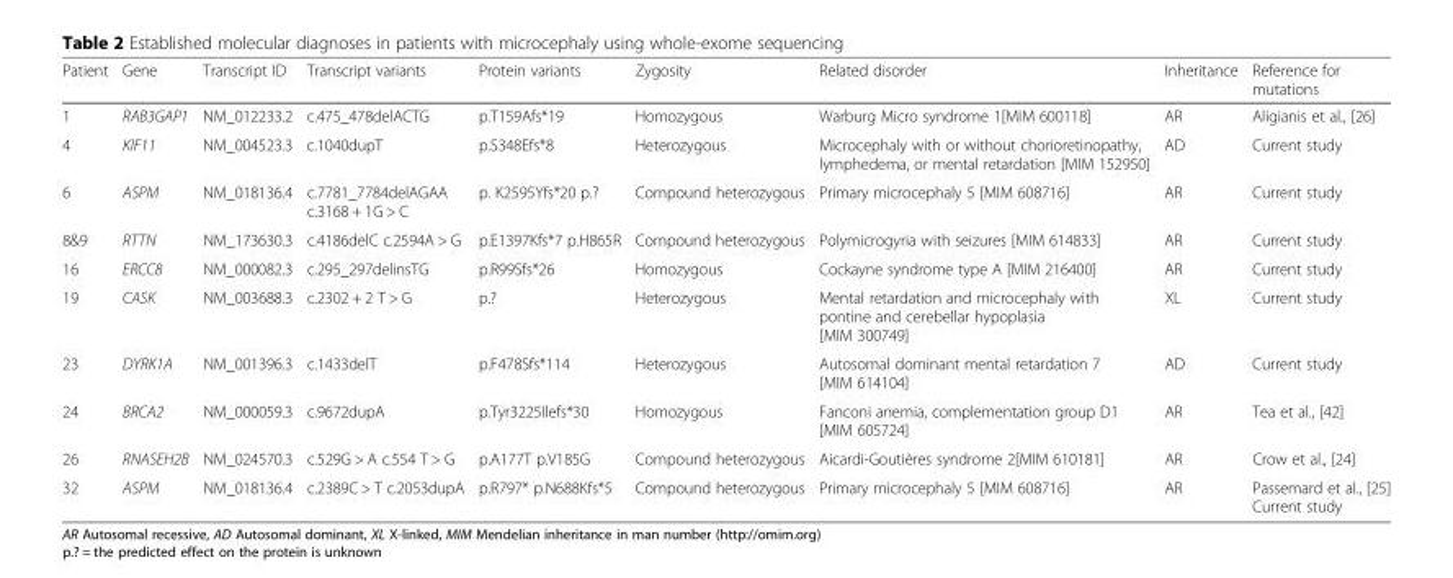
<table><thead><tr><td>Patient</td><td>Gene</td><td>Transcript ID</td><td>Transcript variants</td><td>Protein variants</td><td>Zygosity</td><td>Related disorder</td><td>Inheritance</td><td>Reference for mutations</td></tr></thead><tbody><tr><td>1</td><td>RAB3GAP1</td><td>NM_012233.2</td><td>c.475_478delACTG</td><td>p.T159Afs*19</td><td>Homozygous</td><td>Warburg Micro syndrome 1[MIM 600118]</td><td>AR</td><td>Aligianis et al., [26]</td></tr><tr><td>4</td><td>KIF11</td><td>NM_004523.3</td><td>c.1040dupT</td><td>p.S348Efs*8</td><td>Heterozygous</td><td>Microcephaly with or without chorioretinopathy, lymphedema, or mental retardation [MIM 152950]</td><td>AD</td><td>Current study</td></tr><tr><td>6</td><td>ASPM</td><td>NM_018136.4</td><td>c.7781_7784delAGAA c.3168 + 1G &gt; C</td><td>p. K2595Yfs*20 p.?</td><td>Compound heterozygous</td><td>Primary microcephaly 5 [MIM 608716]</td><td>AR</td><td>Current study</td></tr><tr><td>8&amp;9</td><td>RTTN</td><td>NM_173630.3</td><td>c.4186delC c.2594A &gt; G</td><td>p.E1397Kfs*7 p.H865R</td><td>Compound heterozygous</td><td>Polymicrogyria with seizures [MIM 614833]</td><td>AR</td><td>Current study</td></tr><tr><td>16</td><td>ERCC8</td><td>NM_000082.3</td><td>c.295_297delinsTG</td><td>p.R99Sfs*26</td><td>Homozygous</td><td>Cockayne syndrome type A [MIM 216400]</td><td>AR</td><td>Current study</td></tr><tr><td>19</td><td>CASK</td><td>NM_003688.3</td><td>c.2302 + 2 T &gt; G</td><td>p.?</td><td>Heterozygous</td><td>Mental retardation and microcephaly with pontine and cerebellar hypoplasia [MIM 300749]</td><td>XL</td><td>Current study</td></tr><tr><td>23</td><td>DYRK1A</td><td>NM_001396.3</td><td>c.1433delT</td><td>p.F478Sfs*114</td><td>Heterozygous</td><td>Autosomal dominant mental retardation 7 [MIM 614104]</td><td>AD</td><td>Current study</td></tr><tr><td>24</td><td>BRCA2</td><td>NM_000059.3</td><td>c.9672dupA</td><td>p.Tyr3225Ilefs*30</td><td>Homozygous</td><td>Fanconi anemia, complementation group D1 [MIM 605724]</td><td>AR</td><td>Tea et al., [42]</td></tr><tr><td>26</td><td>RNASEH2B</td><td>NM_024570.3</td><td>c.529G &gt; A c.554 T &gt; G</td><td>p.A177T p.V185G</td><td>Compound heterozygous</td><td>Aicardi-Goutières syndrome 2[MIM 610181]</td><td>AR</td><td>Crow et al., [24]</td></tr><tr><td>32</td><td>ASPM</td><td>NM_018136.4</td><td>c.2389C &gt; T c.2053dupA</td><td>p.R797* p.N688Kfs*5</td><td>Compound heterozygous</td><td>Primary microcephaly 5 [MIM 608716]</td><td>AR</td><td>Passemard et al., [25] Current study</td></tr></tbody></table>